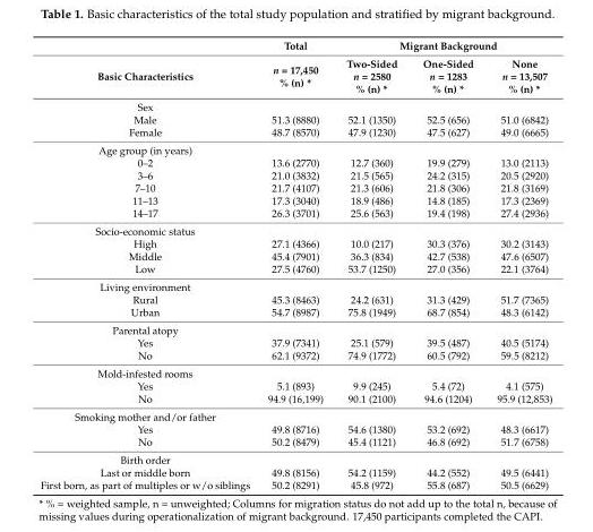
<table><thead><tr><td rowspan="2">Basic Characteristics</td><td rowspan="2">Total n = 17,450 % (n) *</td><td colspan="3">Migrant Background</td></tr><tr><td>Two-Sided n = 2580 % (n) *</td><td>One-Sided n = 1283 % (n) *</td><td>None n = 13,507 % (n) *</td></tr></thead><tbody><tr><td colspan="5">Sex</td></tr><tr><td>Male</td><td>51.3 (8880)</td><td>52.1 (1350)</td><td>52.5 (656)</td><td>51.0 (6842)</td></tr><tr><td>Female</td><td>48.7 (8570)</td><td>47.9 (1230)</td><td>47.5 (627)</td><td>49.0 (6665)</td></tr><tr><td colspan="5">Age group (in years)</td></tr><tr><td>0–2</td><td>13.6 (2770)</td><td>12.7 (360)</td><td>19.9 (279)</td><td>13.0 (2113)</td></tr><tr><td>3–6</td><td>21.0 (3832)</td><td>21.5 (565)</td><td>24.2 (315)</td><td>20.5 (2920)</td></tr><tr><td>7–10</td><td>21.7 (4107)</td><td>21.3 (606)</td><td>21.8 (306)</td><td>21.8 (3169)</td></tr><tr><td>11–13</td><td>17.3 (3040)</td><td>18.9 (486)</td><td>14.8 (185)</td><td>17.3 (2369)</td></tr><tr><td>14–17</td><td>26.3 (3701)</td><td>25.6 (563)</td><td>19.4 (198)</td><td>27.4 (2936)</td></tr><tr><td colspan="5">Socio-economic status</td></tr><tr><td>High</td><td>27.1 (4366)</td><td>10.0 (217)</td><td>30.3 (376)</td><td>30.2 (3143)</td></tr><tr><td>Middle</td><td>45.4 (7901)</td><td>36.3 (834)</td><td>42.7 (538)</td><td>47.6 (6507)</td></tr><tr><td>Low</td><td>27.5 (4760)</td><td>53.7 (1250)</td><td>27.0 (356)</td><td>22.1 (3764)</td></tr><tr><td colspan="5">Living environment</td></tr><tr><td>Rural</td><td>45.3 (8463)</td><td>24.2 (631)</td><td>31.3 (429)</td><td>51.7 (7365)</td></tr><tr><td>Urban</td><td>54.7 (8987)</td><td>75.8 (1949)</td><td>68.7 (854)</td><td>48.3 (6142)</td></tr><tr><td colspan="5">Parental atopy</td></tr><tr><td>Yes</td><td>37.9 (7341)</td><td>25.1 (579)</td><td>39.5 (487)</td><td>40.5 (5174)</td></tr><tr><td>No</td><td>62.1 (9372)</td><td>74.9 (1772)</td><td>60.5 (792)</td><td>59.5 (8212)</td></tr><tr><td colspan="5">Mold-infested rooms</td></tr><tr><td>Yes</td><td>5.1 (893)</td><td>9.9 (245)</td><td>5.4 (72)</td><td>4.1 (575)</td></tr><tr><td>No</td><td>94.9 (16,199)</td><td>90.1 (2100)</td><td>94.6 (1204)</td><td>95.9 (12,853)</td></tr><tr><td colspan="5">Smoking mother and/or father</td></tr><tr><td>Yes</td><td>49.8 (8716)</td><td>54.6 (1380)</td><td>53.2 (692)</td><td>48.3 (6617)</td></tr><tr><td>No</td><td>50.2 (8479)</td><td>45.4 (1121)</td><td>46.8 (692)</td><td>51.7 (6758)</td></tr><tr><td colspan="5">Birth order</td></tr><tr><td>Last or middle born</td><td>49.8 (8156)</td><td>54.2 (1159)</td><td>44.2 (552)</td><td>49.5 (6441)</td></tr><tr><td>First born, as part of multiples or w/o siblings</td><td>50.2 (8291)</td><td>45.8 (972)</td><td>55.8 (687)</td><td>50.5 (6629)</td></tr></tbody></table>